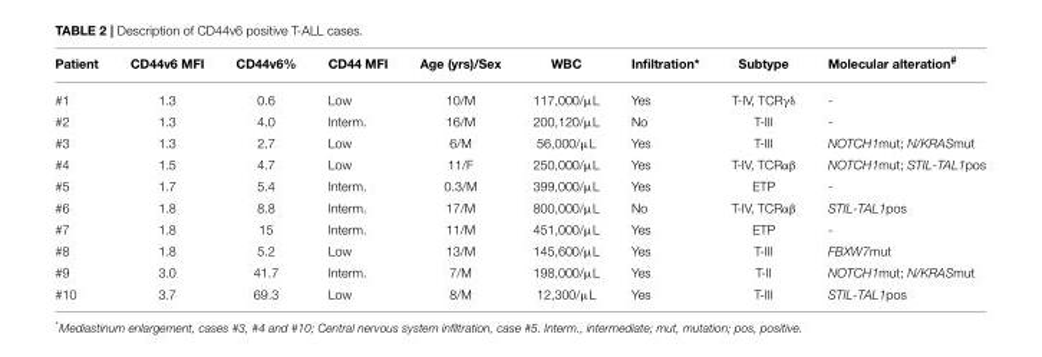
<table><thead><tr><td>Patient</td><td>CD44v6 MFI</td><td>CD44v6%</td><td>CD44 MFI</td><td>Age (yrs)/Sex</td><td>WBC</td><td>Infiltration*</td><td>Subtype</td><td>Molecular alteration<sup>#</sup></td></tr></thead><tbody><tr><td>#1</td><td>1.3</td><td>0.6</td><td>Low</td><td>10/M</td><td>117,000/µL</td><td>Yes</td><td>T-IV, TCRγδ</td><td>-</td></tr><tr><td>#2</td><td>1.3</td><td>4.0</td><td>Interm.</td><td>16/M</td><td>200,120/µL</td><td>No</td><td>T-III</td><td>-</td></tr><tr><td>#3</td><td>1.3</td><td>2.7</td><td>Low</td><td>6/M</td><td>56,000/µL</td><td>Yes</td><td>T-III</td><td>NOTCH1mut; N/KRASmut</td></tr><tr><td>#4</td><td>1.5</td><td>4.7</td><td>Low</td><td>11/F</td><td>250,000/µL</td><td>Yes</td><td>T-IV, TCRαβ</td><td>NOTCH1mut; STIL-TAL1pos</td></tr><tr><td>#5</td><td>1.7</td><td>5.4</td><td>Interm.</td><td>0.3/M</td><td>399,000/µL</td><td>Yes</td><td>ETP</td><td>-</td></tr><tr><td>#6</td><td>1.8</td><td>8.8</td><td>Interm.</td><td>17/M</td><td>800,000/µL</td><td>No</td><td>T-IV, TCRαβ</td><td>STIL-TAL1pos</td></tr><tr><td>#7</td><td>1.8</td><td>15</td><td>Interm.</td><td>11/M</td><td>451,000/µL</td><td>Yes</td><td>ETP</td><td>-</td></tr><tr><td>#8</td><td>1.8</td><td>5.2</td><td>Low</td><td>13/M</td><td>145,600/µL</td><td>Yes</td><td>T-III</td><td>FBXW7mut</td></tr><tr><td>#9</td><td>3.0</td><td>41.7</td><td>Interm.</td><td>7/M</td><td>198,000/µL</td><td>Yes</td><td>T-II</td><td>NOTCH1mut; N/KRASmut</td></tr><tr><td>#10</td><td>3.7</td><td>69.3</td><td>Low</td><td>8/M</td><td>12,300/µL</td><td>Yes</td><td>T-III</td><td>STIL-TAL1pos</td></tr></tbody></table>